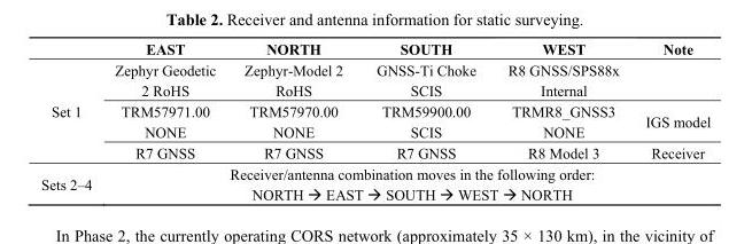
<table><thead><tr><td></td><td>EAST</td><td>NORTH</td><td>SOUTH</td><td>WEST</td><td>Note</td></tr></thead><tbody><tr><td rowspan="3">Set 1</td><td>Zephyr Geodetic 2 RoHS</td><td>Zephyr-Model 2 RoHS</td><td>GNSS-Ti Choke SCIS</td><td>R8 GNSS/SPS88x Internal</td><td></td></tr><tr><td>TRM57971.00 NONE</td><td>TRM57970.00 NONE</td><td>TRM59900.00 SCIS</td><td>TRMR8_GNSS3 NONE</td><td>IGS model</td></tr><tr><td>R7 GNSS</td><td>R7 GNSS</td><td>R7 GNSS</td><td>R8 Model 3</td><td>Receiver</td></tr><tr><td>Sets 2–4</td><td colspan="5">Receiver/antenna combination moves in the following order: NORTH ➔ EAST ➔ SOUTH ➔ WEST ➔ NORTH</td></tr></tbody></table>